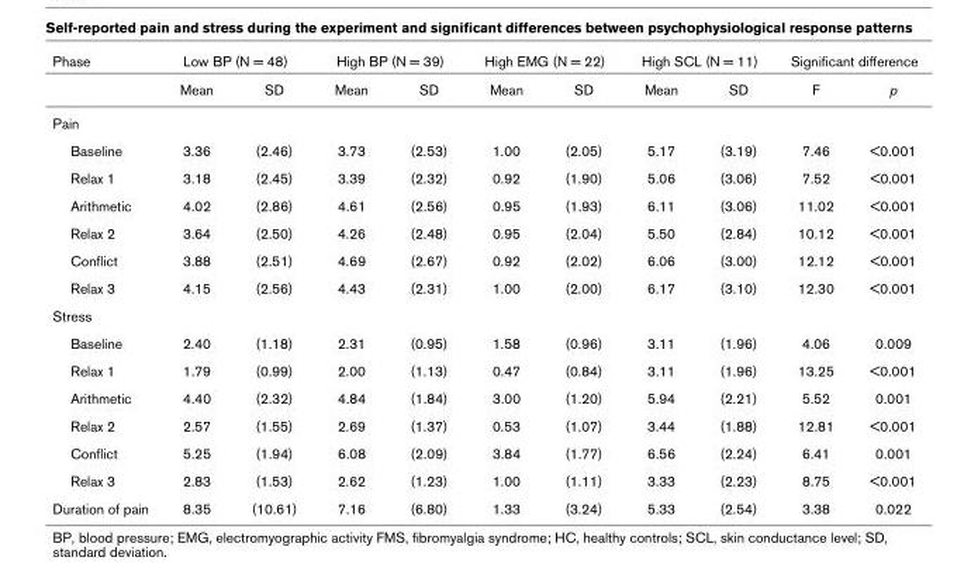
<table><thead><tr><td rowspan="2">Phase</td><td colspan="2">Low BP (N = 48)</td><td colspan="2">High BP (N = 39)</td><td colspan="2">High EMG (N = 22)</td><td colspan="2">High SCL (N = 11)</td><td colspan="2">Significant difference</td></tr><tr><td>Mean</td><td>SD</td><td>Mean</td><td>SD</td><td>Mean</td><td>SD</td><td>Mean</td><td>SD</td><td>F</td><td>p</td></tr></thead><tbody><tr><td colspan="11">Pain</td></tr><tr><td>Baseline</td><td>3.36</td><td>(2.46)</td><td>3.73</td><td>(2.53)</td><td>1.00</td><td>(2.05)</td><td>5.17</td><td>(3.19)</td><td>7.46</td><td>&lt;0.001</td></tr><tr><td>Relax 1</td><td>3.18</td><td>(2.45)</td><td>3.39</td><td>(2.32)</td><td>0.92</td><td>(1.90)</td><td>5.06</td><td>(3.06)</td><td>7.52</td><td>&lt;0.001</td></tr><tr><td>Arithmetic</td><td>4.02</td><td>(2.86)</td><td>4.61</td><td>(2.56)</td><td>0.95</td><td>(1.93)</td><td>6.11</td><td>(3.06)</td><td>11.02</td><td>&lt;0.001</td></tr><tr><td>Relax 2</td><td>3.64</td><td>(2.50)</td><td>4.26</td><td>(2.48)</td><td>0.95</td><td>(2.04)</td><td>5.50</td><td>(2.84)</td><td>10.12</td><td>&lt;0.001</td></tr><tr><td>Conflict</td><td>3.88</td><td>(2.51)</td><td>4.69</td><td>(2.67)</td><td>0.92</td><td>(2.02)</td><td>6.06</td><td>(3.00)</td><td>12.12</td><td>&lt;0.001</td></tr><tr><td>Relax 3</td><td>4.15</td><td>(2.56)</td><td>4.43</td><td>(2.31)</td><td>1.00</td><td>(2.00)</td><td>6.17</td><td>(3.10)</td><td>12.30</td><td>&lt;0.001</td></tr><tr><td colspan="11">Stress</td></tr><tr><td>Baseline</td><td>2.40</td><td>(1.18)</td><td>2.31</td><td>(0.95)</td><td>1.58</td><td>(0.96)</td><td>3.11</td><td>(1.96)</td><td>4.06</td><td>0.009</td></tr><tr><td>Relax 1</td><td>1.79</td><td>(0.99)</td><td>2.00</td><td>(1.13)</td><td>0.47</td><td>(0.84)</td><td>3.11</td><td>(1.96)</td><td>13.25</td><td>&lt;0.001</td></tr><tr><td>Arithmetic</td><td>4.40</td><td>(2.32)</td><td>4.84</td><td>(1.84)</td><td>3.00</td><td>(1.20)</td><td>5.94</td><td>(2.21)</td><td>5.52</td><td>0.001</td></tr><tr><td>Relax 2</td><td>2.57</td><td>(1.55)</td><td>2.69</td><td>(1.37)</td><td>0.53</td><td>(1.07)</td><td>3.44</td><td>(1.88)</td><td>12.81</td><td>&lt;0.001</td></tr><tr><td>Conflict</td><td>5.25</td><td>(1.94)</td><td>6.08</td><td>(2.09)</td><td>3.84</td><td>(1.77)</td><td>6.56</td><td>(2.24)</td><td>6.41</td><td>0.001</td></tr><tr><td>Relax 3</td><td>2.83</td><td>(1.53)</td><td>2.62</td><td>(1.23)</td><td>1.00</td><td>(1.11)</td><td>3.33</td><td>(2.23)</td><td>8.75</td><td>&lt;0.001</td></tr><tr><td>Duration of pain</td><td>8.35</td><td>(10.61)</td><td>7.16</td><td>(6.80)</td><td>1.33</td><td>(3.24)</td><td>5.33</td><td>(2.54)</td><td>3.38</td><td>0.022</td></tr></tbody></table>